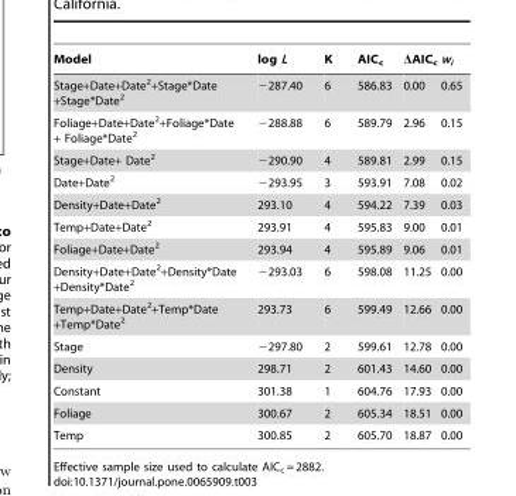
<table><thead><tr><td>Model</td><td>log L</td><td>K</td><td>AIC<sub>c</sub></td><td>ΔAIC<sub>c</sub></td><td>w<sub>i</sub></td></tr></thead><tbody><tr><td>Stage+Date+Date<sup>2</sup>+Stage*Date +Stage*Date<sup>2</sup></td><td>−287.40</td><td>6</td><td>586.83</td><td>0.00</td><td>0.65</td></tr><tr><td>Foliage+Date+Date<sup>2</sup>+Foliage*Date + Foliage*Date<sup>2</sup></td><td>−288.88</td><td>6</td><td>589.79</td><td>2.96</td><td>0.15</td></tr><tr><td>Stage+Date+ Date<sup>2</sup></td><td>−290.90</td><td>4</td><td>589.81</td><td>2.99</td><td>0.15</td></tr><tr><td>Date+Date<sup>2</sup></td><td>−293.95</td><td>3</td><td>593.91</td><td>7.08</td><td>0.02</td></tr><tr><td>Density+Date+Date<sup>2</sup></td><td>293.10</td><td>4</td><td>594.22</td><td>7.39</td><td>0.03</td></tr><tr><td>Temp+Date+Date<sup>2</sup></td><td>293.91</td><td>4</td><td>595.83</td><td>9.00</td><td>0.01</td></tr><tr><td>Foliage+Date+Date<sup>2</sup></td><td>293.94</td><td>4</td><td>595.89</td><td>9.06</td><td>0.01</td></tr><tr><td>Density+Date+Date<sup>2</sup>+Density*Date +Density*Date<sup>2</sup></td><td>−293.03</td><td>6</td><td>598.08</td><td>11.25</td><td>0.00</td></tr><tr><td>Temp+Date+Date<sup>2</sup>+Temp*Date +Temp*Date<sup>2</sup></td><td>293.73</td><td>6</td><td>599.49</td><td>12.66</td><td>0.00</td></tr><tr><td>Stage</td><td>−297.80</td><td>2</td><td>599.61</td><td>12.78</td><td>0.00</td></tr><tr><td>Density</td><td>298.71</td><td>2</td><td>601.43</td><td>14.60</td><td>0.00</td></tr><tr><td>Constant</td><td>301.38</td><td>1</td><td>604.76</td><td>17.93</td><td>0.00</td></tr><tr><td>Foliage</td><td>300.67</td><td>2</td><td>605.34</td><td>18.51</td><td>0.00</td></tr><tr><td>Temp</td><td>300.85</td><td>2</td><td>605.70</td><td>18.87</td><td>0.00</td></tr></tbody></table>